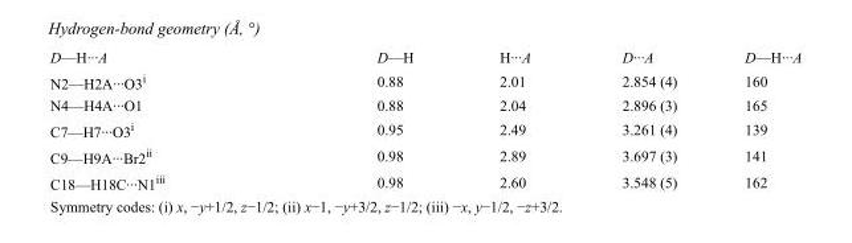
<table><tbody><tr><td>D—H···A</td><td>D—H</td><td>H···A</td><td>D···A</td><td>D—H···A</td></tr><tr><td>N2—H2A···O3<sup>i</sup></td><td>0.88</td><td>2.01</td><td>2.854 (4)</td><td>160</td></tr><tr><td>N4—H4A···O1</td><td>0.88</td><td>2.04</td><td>2.896 (3)</td><td>165</td></tr><tr><td>C7—H7···O3<sup>i</sup></td><td>0.95</td><td>2.49</td><td>3.261 (4)</td><td>139</td></tr><tr><td>C9—H9A···Br2<sup>ii</sup></td><td>0.98</td><td>2.89</td><td>3.697 (3)</td><td>141</td></tr><tr><td>C18—H18C···N1<sup>iii</sup></td><td>0.98</td><td>2.60</td><td>3.548 (5)</td><td>162</td></tr></tbody></table>